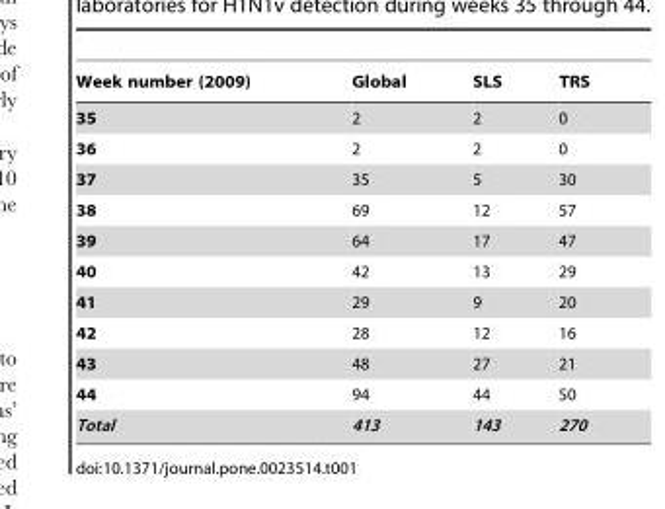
<table><thead><tr><td>Week number (2009)</td><td>Global</td><td>SLS</td><td>TRS</td></tr></thead><tbody><tr><td>35</td><td>2</td><td>2</td><td>0</td></tr><tr><td>36</td><td>2</td><td>2</td><td>0</td></tr><tr><td>37</td><td>35</td><td>5</td><td>30</td></tr><tr><td>38</td><td>69</td><td>12</td><td>57</td></tr><tr><td>39</td><td>64</td><td>17</td><td>47</td></tr><tr><td>40</td><td>42</td><td>13</td><td>29</td></tr><tr><td>41</td><td>29</td><td>9</td><td>20</td></tr><tr><td>42</td><td>28</td><td>12</td><td>16</td></tr><tr><td>43</td><td>48</td><td>27</td><td>21</td></tr><tr><td>44</td><td>94</td><td>44</td><td>50</td></tr><tr><td>Total</td><td>413</td><td>143</td><td>270</td></tr></tbody></table>